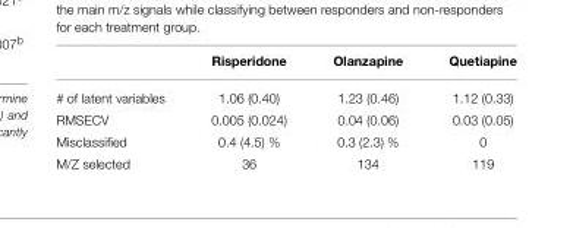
<table><thead><tr><td></td><td>Risperidone</td><td>Olanzapine</td><td>Quetiapine</td></tr></thead><tbody><tr><td># of latent variables</td><td>1.06 (0.40)</td><td>1.23 (0.46)</td><td>1.12 (0.33)</td></tr><tr><td>RMSECV</td><td>0.005 (0.024)</td><td>0.04 (0.06)</td><td>0.03 (0.05)</td></tr><tr><td>Misclassified</td><td>0.4 (4.5) %</td><td>0.3 (2.3) %</td><td>0</td></tr><tr><td>M/Z selected</td><td>36</td><td>134</td><td>119</td></tr></tbody></table>